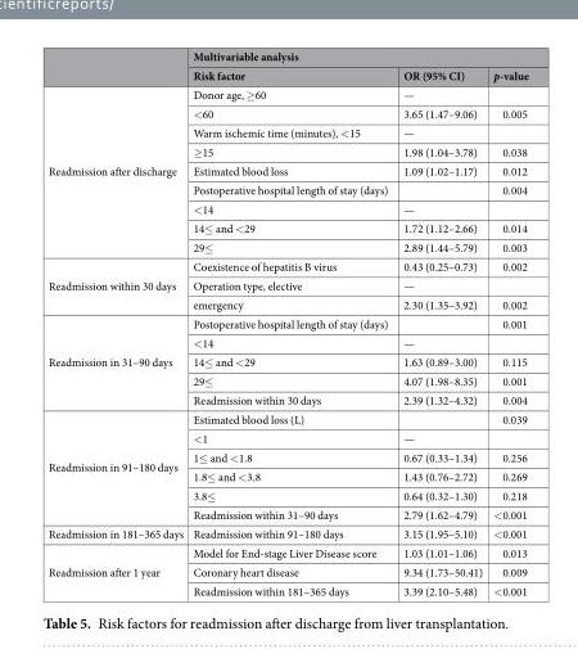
<table><thead><tr><td rowspan="2"></td><td colspan="3">Multivariable analysis</td></tr><tr><td>Risk factor</td><td>OR (95% CI)</td><td>p-value</td></tr></thead><tbody><tr><td rowspan="9">Readmission after discharge</td><td>Donor age, ≥60</td><td>—</td><td></td></tr><tr><td>&lt;60</td><td>3.65 (1.47–9.06)</td><td>0.005</td></tr><tr><td>Warm ischemic time (minutes), &lt;15</td><td>—</td><td></td></tr><tr><td>≥15</td><td>1.98 (1.04–3.78)</td><td>0.038</td></tr><tr><td>Estimated blood loss</td><td>1.09 (1.02–1.17)</td><td>0.012</td></tr><tr><td>Postoperative hospital length of stay (days)</td><td></td><td>0.004</td></tr><tr><td>&lt;14</td><td>—</td><td></td></tr><tr><td>14≤ and &lt;29</td><td>1.72 (1.12–2.66)</td><td>0.014</td></tr><tr><td>29≤</td><td>2.89 (1.44–5.79)</td><td>0.003</td></tr><tr><td rowspan="3">Readmission within 30 days</td><td>Coexistence of hepatitis B virus</td><td>0.43 (0.25–0.73)</td><td>0.002</td></tr><tr><td>Operation type, elective</td><td>—</td><td></td></tr><tr><td>emergency</td><td>2.30 (1.35–3.92)</td><td>0.002</td></tr><tr><td rowspan="5">Readmission in 31–90 days</td><td>Postoperative hospital length of stay (days)</td><td></td><td>0.001</td></tr><tr><td>&lt;14</td><td>—</td><td></td></tr><tr><td>14≤ and &lt;29</td><td>1.63 (0.89–3.00)</td><td>0.115</td></tr><tr><td>29≤</td><td>4.07 (1.98–8.35)</td><td>0.001</td></tr><tr><td>Readmission within 30 days</td><td>2.39 (1.32–4.32)</td><td>0.004</td></tr><tr><td rowspan="6">Readmission in 91–180 days</td><td>Estimated blood loss (L)</td><td></td><td>0.039</td></tr><tr><td>&lt;1</td><td>—</td><td></td></tr><tr><td>1≤ and &lt;1.8</td><td>0.67 (0.33–1.34)</td><td>0.256</td></tr><tr><td>1.8≤ and &lt;3.8</td><td>1.43 (0.76–2.72)</td><td>0.269</td></tr><tr><td>3.8≤</td><td>0.64 (0.32–1.30)</td><td>0.218</td></tr><tr><td>Readmission within 31–90 days</td><td>2.79 (1.62–4.79)</td><td>&lt;0.001</td></tr><tr><td>Readmission in 181–365 days</td><td>Readmission within 91–180 days</td><td>3.15 (1.95–5.10)</td><td>&lt;0.001</td></tr><tr><td rowspan="3">Readmission after 1 year</td><td>Model for End-stage Liver Disease score</td><td>1.03 (1.01–1.06)</td><td>0.013</td></tr><tr><td>Coronary heart disease</td><td>9.34 (1.73–50.41)</td><td>0.009</td></tr><tr><td>Readmission within 181–365 days</td><td>3.39 (2.10–5.48)</td><td>&lt;0.001</td></tr></tbody></table>